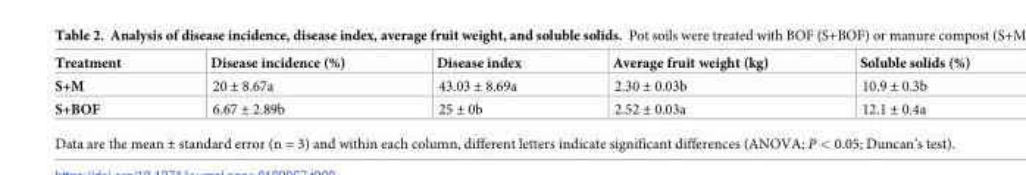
<table><thead><tr><td>Treatment</td><td>Disease incidence (%)</td><td>Disease index</td><td>Average fruit weight (kg)</td><td>Soluble solids (%)</td></tr></thead><tbody><tr><td>S+M</td><td>20 ± 8.67a</td><td>43.03 ± 8.69a</td><td>2.30 ± 0.03b</td><td>10.9 ± 0.3b</td></tr><tr><td>S+BOF</td><td>6.67 ± 2.89b</td><td>25 ± 0b</td><td>2.52 ± 0.03a</td><td>12.1 ± 0.4a</td></tr></tbody></table>